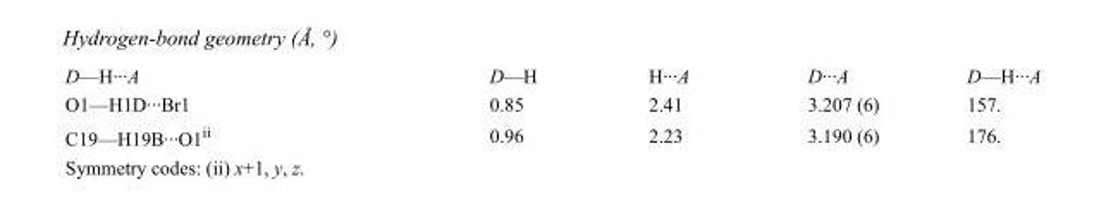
<table><tbody><tr><td>D—H···A</td><td>D—H</td><td>H···A</td><td>D···A</td><td>D—H···A</td></tr><tr><td>O1—H1D···Br1</td><td>0.85</td><td>2.41</td><td>3.207 (6)</td><td>157.</td></tr><tr><td>C19—H19B···O1<sup>ii</sup></td><td>0.96</td><td>2.23</td><td>3.190 (6)</td><td>176.</td></tr></tbody></table>